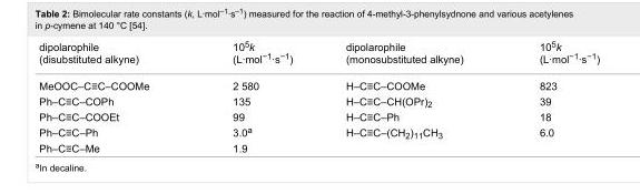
<table><tbody><tr><td>dipolarophile (disubstituted alkyne)</td><td>10<sup>5</sup>k (L·mol<sup>−1</sup>·s<sup>−1</sup>)</td><td>dipolarophile (monosubstituted alkyne)</td><td>10<sup>5</sup>k (L·mol<sup>−1</sup>·s<sup>−1</sup>)</td></tr><tr><td>MeOOC–C≡C–COOMe</td><td>2 580</td><td>H–C≡C–COOMe</td><td>823</td></tr><tr><td>Ph–C≡C–COPh</td><td>135</td><td>H–C≡C–CH(OPr)<sub>2</sub></td><td>39</td></tr><tr><td>Ph–C≡C–COOEt</td><td>99</td><td>H–C≡C–Ph</td><td>18</td></tr><tr><td>Ph–C≡C–Ph</td><td>3.0<sup>a</sup></td><td>H–C≡C–(CH<sub>2</sub>)<sub>11</sub>CH<sub>3</sub></td><td>6.0</td></tr><tr><td>Ph–C≡C–Me</td><td>1.9</td><td></td><td></td></tr></tbody></table>